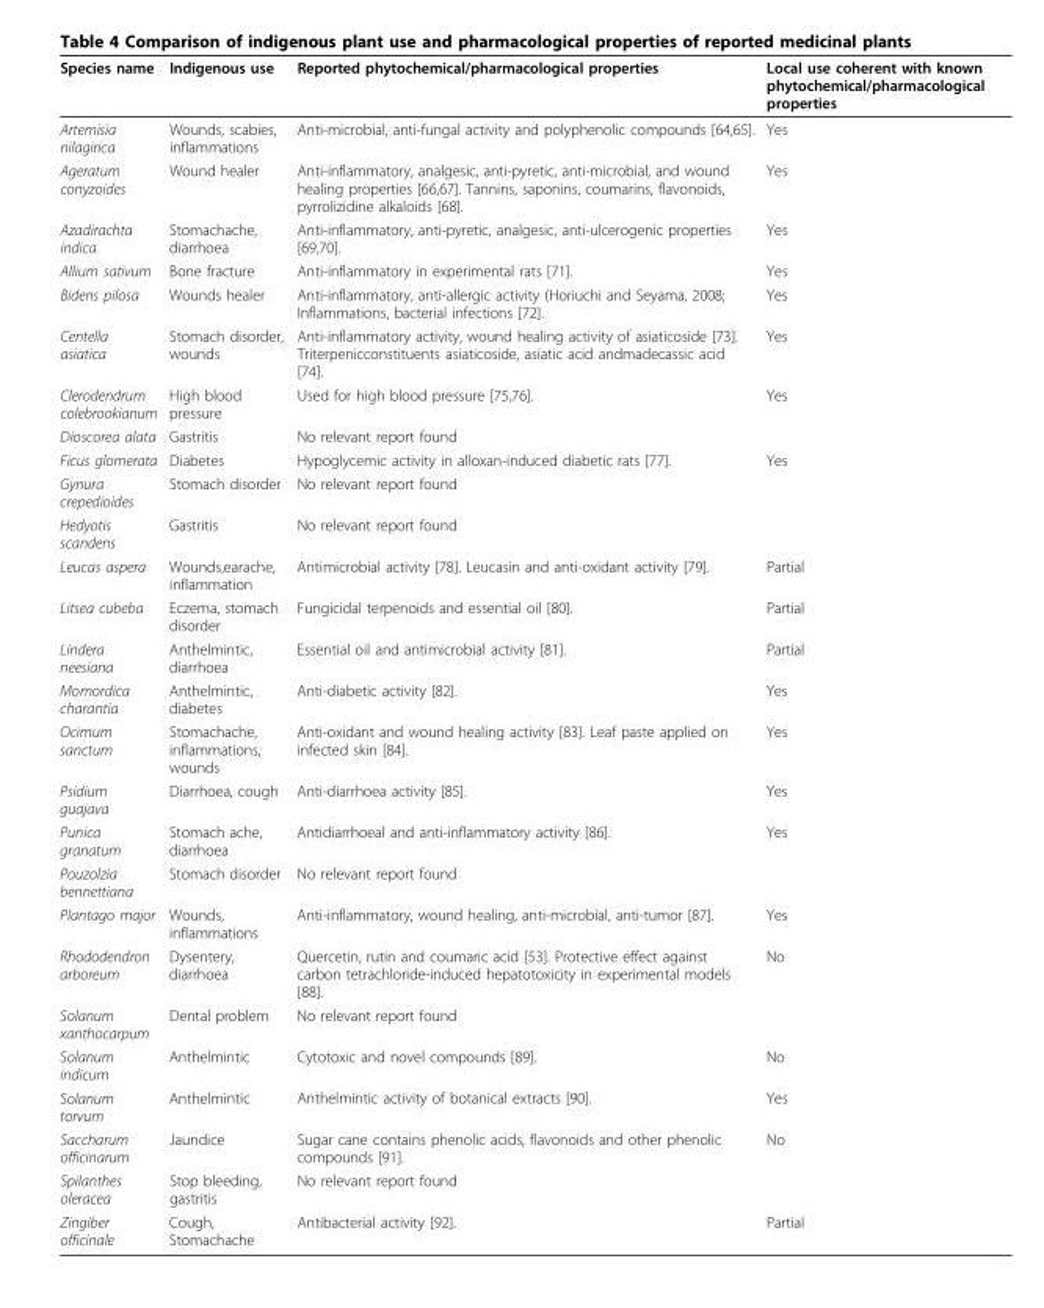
<table><thead><tr><td>Species name</td><td>Indigenous use</td><td>Reported phytochemical/pharmacological properties</td><td>Local use coherent with known phytochemical/pharmacological properties</td></tr></thead><tbody><tr><td>Artemisia nilagirica</td><td>Wounds, scabies, inflammations</td><td>Anti-microbial, anti-fungal activity and polyphenolic compounds [64,65].</td><td>Yes</td></tr><tr><td>Ageratum conyzoides</td><td>Wound healer</td><td>Anti-inflammatory, analgesic, anti-pyretic, anti-microbial, and wound healing properties [66,67]. Tannins, saponins, coumarins, flavonoids, pyrrolizidine alkaloids [68].</td><td>Yes</td></tr><tr><td>Azadirachta indica</td><td>Stomachache, diarrhoea</td><td>Anti-inflammatory, anti-pyretic, analgesic, anti-ulcerogenic properties [69,70].</td><td>Yes</td></tr><tr><td>Allium sativum</td><td>Bone fracture</td><td>Anti-inflammatory in experimental rats [71].</td><td>Yes</td></tr><tr><td>Bidens pilosa</td><td>Wounds healer</td><td>Anti-inflammatory, anti-allergic activity (Horiuchi and Seyama, 2008; Inflammations, bacterial infections [72].</td><td>Yes</td></tr><tr><td>Centella asiatica</td><td>Stomach disorder, wounds</td><td>Anti-inflammatory activity, wound healing activity of asiaticoside [73]. Triterpenicconstituents asiaticoside, asiatic acid andmadecassic acid [74].</td><td>Yes</td></tr><tr><td>Clerodendrum colebrookianum</td><td>High blood pressure</td><td>Used for high blood pressure [75,76].</td><td>Yes</td></tr><tr><td>Dioscorea alata</td><td>Gastritis</td><td>No relevant report found</td><td></td></tr><tr><td>Ficus glomerata</td><td>Diabetes</td><td>Hypoglycemic activity in alloxan-induced diabetic rats [77].</td><td>Yes</td></tr><tr><td>Gynura crepedioides</td><td>Stomach disorder</td><td>No relevant report found</td><td></td></tr><tr><td>Hedyotis scandens</td><td>Gastritis</td><td>No relevant report found</td><td></td></tr><tr><td>Leucas aspera</td><td>Wounds,earache, inflammation</td><td>Antimicrobial activity [78]. Leucasin and anti-oxidant activity [79].</td><td>Partial</td></tr><tr><td>Litsea cubeba</td><td>Eczema, stomach disorder</td><td>Fungicidal terpenoids and essential oil [80].</td><td>Partial</td></tr><tr><td>Lindera neesiana</td><td>Anthelmintic, diarrhoea</td><td>Essential oil and antimicrobial activity [81].</td><td>Partial</td></tr><tr><td>Momordica charantia</td><td>Anthelmintic, diabetes</td><td>Anti-diabetic activity [82].</td><td>Yes</td></tr><tr><td>Ocimum sanctum</td><td>Stomachache, inflammations, wounds</td><td>Anti-oxidant and wound healing activity [83]. Leaf paste applied on infected skin [84].</td><td>Yes</td></tr><tr><td>Psidium guajava</td><td>Diarrhoea, cough</td><td>Anti-diarrhoea activity [85].</td><td>Yes</td></tr><tr><td>Punica granatum</td><td>Stomach ache, diarrhoea</td><td>Antidiarrhoeal and anti-inflammatory activity [86].</td><td>Yes</td></tr><tr><td>Pouzolzia bennettiana</td><td>Stomach disorder</td><td>No relevant report found</td><td></td></tr><tr><td>Plantago major</td><td>Wounds, inflammations</td><td>Anti-inflammatory, wound healing, anti-microbial, anti-tumor [87].</td><td>Yes</td></tr><tr><td>Rhododendron arboreum</td><td>Dysentery, diarrhoea</td><td>Quercetin, rutin and coumaric acid [53]. Protective effect against carbon tetrachloride-induced hepatotoxicity in experimental models [88].</td><td>No</td></tr><tr><td>Solanum xanthocarpum</td><td>Dental problem</td><td>No relevant report found</td><td></td></tr><tr><td>Solanum indicum</td><td>Anthelmintic</td><td>Cytotoxic and novel compounds [89].</td><td>No</td></tr><tr><td>Solanum torvum</td><td>Anthelmintic</td><td>Anthelmintic activity of botanical extracts [90].</td><td>Yes</td></tr><tr><td>Saccharum officinarum</td><td>Jaundice</td><td>Sugar cane contains phenolic acids, flavonoids and other phenolic compounds [91].</td><td>No</td></tr><tr><td>Spilanthes oleracea</td><td>Stop bleeding, gastritis</td><td>No relevant report found</td><td></td></tr><tr><td>Zingiber officinale</td><td>Cough, Stomachache</td><td>Antibacterial activity [92].</td><td>Partial</td></tr></tbody></table>